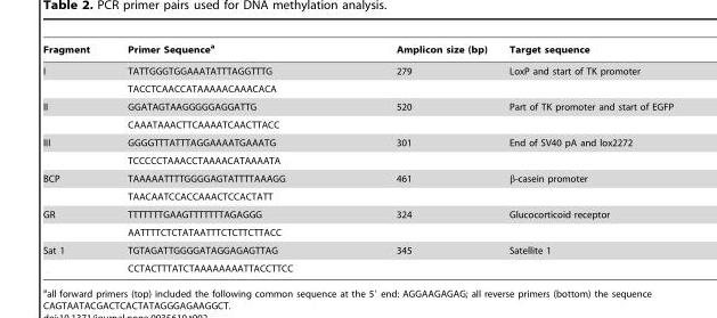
<table><thead><tr><td>Fragment</td><td>Primer Sequence<sup>a</sup></td><td>Amplicon size (bp)</td><td>Target sequence</td></tr></thead><tbody><tr><td rowspan="2">I</td><td>TATTGGGTGGAAATATTTAGGTTTG</td><td>279</td><td>LoxP and start of TK promoter</td></tr><tr><td>TACCTCAACCATAAAAACAAACACA</td><td></td><td></td></tr><tr><td rowspan="2">II</td><td>GGATAGTAAGGGGGAGGATTG</td><td>520</td><td>Part of TK promoter and start of EGFP</td></tr><tr><td>CAAATAAACTTCAAAATCAACTTACC</td><td></td><td></td></tr><tr><td rowspan="2">III</td><td>GGGGTTTATTTAGGAAAATGAAATG</td><td>301</td><td>End of SV40 pA and lox2272</td></tr><tr><td>TCCCCCTAAACCTAAAACATAAAATA</td><td></td><td></td></tr><tr><td rowspan="2">BCP</td><td>TAAAAATTTTGGGGAGTATTTTAAAGG</td><td>461</td><td>β-casein promoter</td></tr><tr><td>TAACAATCCACCAAACTCCACTATT</td><td></td><td></td></tr><tr><td rowspan="2">GR</td><td>TTTTTTTGAAGTTTTTTTAGAGGG</td><td>324</td><td>Glucocorticoid receptor</td></tr><tr><td>AATTTTCTCTATAATTTCTCTTCTTACC</td><td></td><td></td></tr><tr><td rowspan="2">Sat 1</td><td>TGTAGATTGGGGATAGGAGAGTTAG</td><td>345</td><td>Satellite 1</td></tr><tr><td>CCTACTTTATCTAAAAAAAATTACCTTCC</td><td></td><td></td></tr></tbody></table>